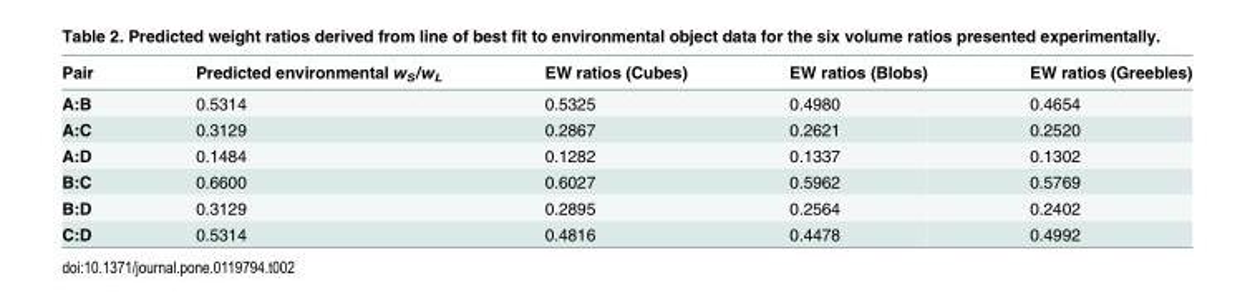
<table><thead><tr><td>Pair</td><td>Predicted environmental w<sub>S</sub>/w<sub>L</sub></td><td>EW ratios (Cubes)</td><td>EW ratios (Blobs)</td><td>EW ratios (Greebles)</td></tr></thead><tbody><tr><td>A:B</td><td>0.5314</td><td>0.5325</td><td>0.4980</td><td>0.4654</td></tr><tr><td>A:C</td><td>0.3129</td><td>0.2867</td><td>0.2621</td><td>0.2520</td></tr><tr><td>A:D</td><td>0.1484</td><td>0.1282</td><td>0.1337</td><td>0.1302</td></tr><tr><td>B:C</td><td>0.6600</td><td>0.6027</td><td>0.5962</td><td>0.5769</td></tr><tr><td>B:D</td><td>0.3129</td><td>0.2895</td><td>0.2564</td><td>0.2402</td></tr><tr><td>C:D</td><td>0.5314</td><td>0.4816</td><td>0.4478</td><td>0.4992</td></tr></tbody></table>